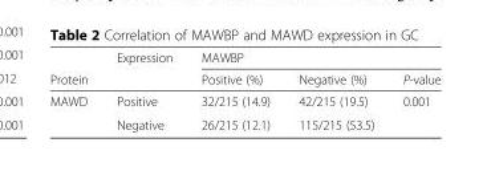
<table><thead><tr><td rowspan="2">Protein</td><td rowspan="2">Expression</td><td colspan="3">MAWBP</td></tr><tr><td>Positive (%)</td><td>Negative (%)</td><td>P-value</td></tr></thead><tbody><tr><td rowspan="2">MAWD</td><td>Positive</td><td>32/215 (14.9)</td><td>42/215 (19.5)</td><td>0.001</td></tr><tr><td>Negative</td><td>26/215 (12.1)</td><td>115/215 (53.5)</td><td></td></tr></tbody></table>